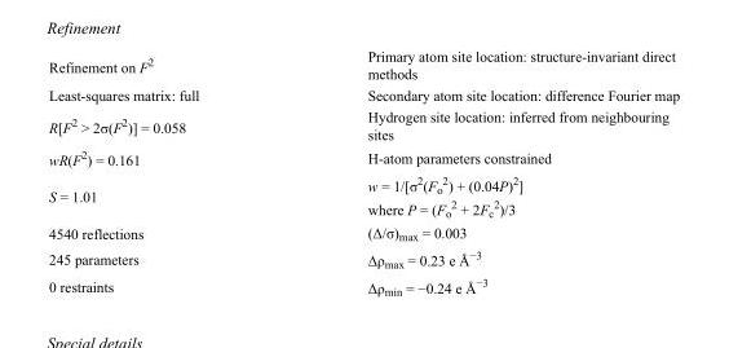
<table><tbody><tr><td>Refinement on F<sup>2</sup></td><td>Primary atom site location: structure-invariant direct methods</td></tr><tr><td>Least-squares matrix: full</td><td>Secondary atom site location: difference Fourier map</td></tr><tr><td>R[F<sup>2</sup> &gt; 2σ(F<sup>2</sup>)] = 0.058</td><td>Hydrogen site location: inferred from neighbouring sites</td></tr><tr><td>wR(F<sup>2</sup>) = 0.161</td><td>H-atom parameters constrained</td></tr><tr><td>S = 1.01</td><td>w = 1/[σ<sup>2</sup>(F<sub>o</sub> <sup>2</sup>) + (0.04P)<sup>2</sup>] where P = (F<sub>o</sub> <sup>2</sup> + 2F<sub>c</sub> <sup>2</sup>)/3</td></tr><tr><td>4540 reflections</td><td>(Δ/σ)<sub>max</sub> = 0.003</td></tr><tr><td>245 parameters</td><td>Δρ<sub>max</sub> = 0.23 e Å<sup>−3</sup></td></tr><tr><td>0 restraints</td><td>Δρ<sub>min</sub> = −0.24 e Å<sup>−3</sup></td></tr></tbody></table>